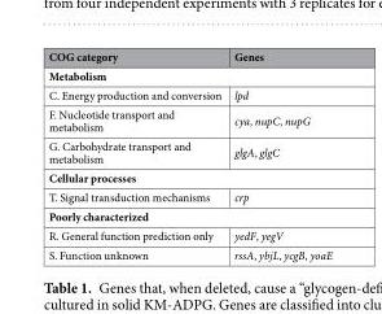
<table><thead><tr><td>COG category</td><td>Genes</td></tr></thead><tbody><tr><td colspan="2">Metabolism</td></tr><tr><td>C. Energy production and conversion</td><td>lpd</td></tr><tr><td>F. Nucleotide transport and metabolism</td><td>cya, nupC, nupG</td></tr><tr><td>G. Carbohydrate transport and metabolism</td><td>glgA, glgC</td></tr><tr><td colspan="2">Cellular processes</td></tr><tr><td>T. Signal transduction mechanisms</td><td>crp</td></tr><tr><td colspan="2">Poorly characterized</td></tr><tr><td>R. General function prediction only</td><td>yedF, yegV</td></tr><tr><td>S. Function unknown</td><td>rssA, ybjL, ycgB, yoaE</td></tr></tbody></table>